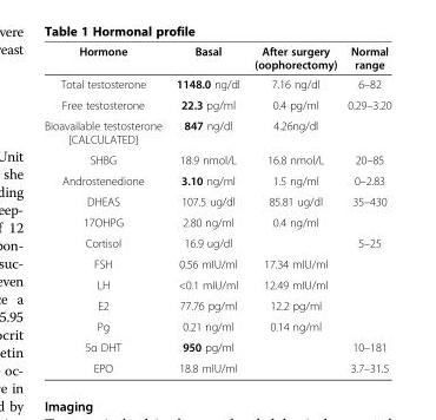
<table><thead><tr><td>Hormone</td><td>Basal</td><td>After surgery (oophorectomy)</td><td>Normal range</td></tr></thead><tbody><tr><td>Total testosterone</td><td>1148.0 ng/dl</td><td>7.16 ng/dl</td><td>6–82</td></tr><tr><td>Free testosterone</td><td>22.3 pg/ml</td><td>0.4 pg/ml</td><td>0.29–3.20</td></tr><tr><td>Bioavailable testosterone [CALCULATED]</td><td>847 ng/dl</td><td>4.26ng/dl</td><td></td></tr><tr><td>SHBG</td><td>18.9 nmol/L</td><td>16.8 nmol/L</td><td>20–85</td></tr><tr><td>Androstenedione</td><td>3.10 ng/ml</td><td>1.5 ng/ml</td><td>0–2.83</td></tr><tr><td>DHEAS</td><td>107.5 ug/dl</td><td>85.81 ug/dl</td><td>35–430</td></tr><tr><td>17OHPG</td><td>2.80 ng/ml</td><td>0.4 ng/ml</td><td></td></tr><tr><td>Cortisol</td><td>16.9 ug/dl</td><td></td><td>5–25</td></tr><tr><td>FSH</td><td>0.56 mIU/ml</td><td>17.34 mIU/ml</td><td></td></tr><tr><td>LH</td><td>&lt;0.1 mIU/ml</td><td>12.49 mIU/ml</td><td></td></tr><tr><td>E2</td><td>77.76 pg/ml</td><td>12.2 pg/ml</td><td></td></tr><tr><td>Pg</td><td>0.21 ng/ml</td><td>0.14 ng/ml</td><td></td></tr><tr><td>5α DHT</td><td>950 pg/ml</td><td></td><td>10–181</td></tr><tr><td>EPO</td><td>18.8 mIU/ml</td><td></td><td>3.7–31.5</td></tr></tbody></table>